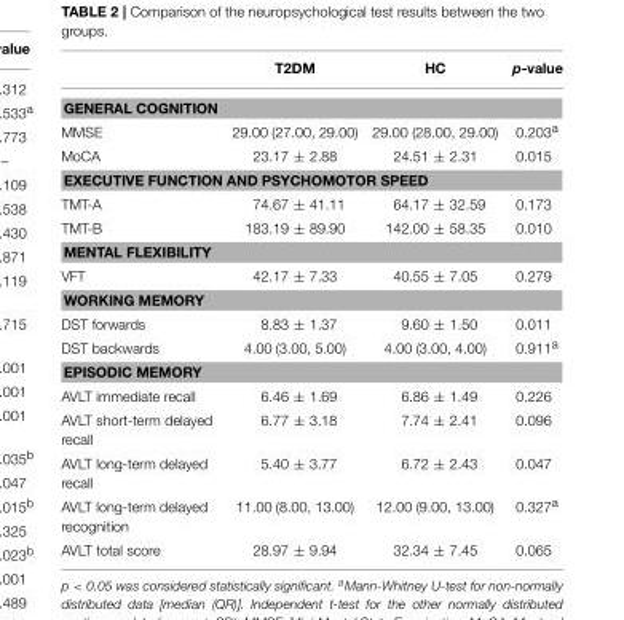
<table><thead><tr><td></td><td>T2DM</td><td>HC</td><td>p-value</td></tr></thead><tbody><tr><td colspan="4">GENERAL COGNITION</td></tr><tr><td>MMSE</td><td>29.00 (27.00, 29.00)</td><td>29.00 (28.00, 29.00)</td><td>0.203<sup>a</sup></td></tr><tr><td>MoCA</td><td>23.17 ± 2.88</td><td>24.51 ± 2.31</td><td>0.015</td></tr><tr><td colspan="4">EXECUTIVE FUNCTION AND PSYCHOMOTOR SPEED</td></tr><tr><td>TMT-A</td><td>74.67 ± 41.11</td><td>64.17 ± 32.59</td><td>0.173</td></tr><tr><td>TMT-B</td><td>183.19 ± 89.90</td><td>142.00 ± 58.35</td><td>0.010</td></tr><tr><td colspan="4">MENTAL FLEXIBILITY</td></tr><tr><td>VFT</td><td>42.17 ± 7.33</td><td>40.55 ± 7.05</td><td>0.279</td></tr><tr><td colspan="4">WORKING MEMORY</td></tr><tr><td>DST forwards</td><td>8.83 ± 1.37</td><td>9.60 ± 1.50</td><td>0.011</td></tr><tr><td>DST backwards</td><td>4.00 (3.00, 5.00)</td><td>4.00 (3.00, 4.00)</td><td>0.911<sup>a</sup></td></tr><tr><td colspan="4">EPISODIC MEMORY</td></tr><tr><td>AVLT immediate recall</td><td>6.46 ± 1.69</td><td>6.86 ± 1.49</td><td>0.226</td></tr><tr><td>AVLT short-term delayed recall</td><td>6.77 ± 3.18</td><td>7.74 ± 2.41</td><td>0.096</td></tr><tr><td>AVLT long-term delayed recall</td><td>5.40 ± 3.77</td><td>6.72 ± 2.43</td><td>0.047</td></tr><tr><td>AVLT long-term delayed recognition</td><td>11.00 (8.00, 13.00)</td><td>12.00 (9.00, 13.00)</td><td>0.327<sup>a</sup></td></tr><tr><td>AVLT total score</td><td>28.97 ± 9.94</td><td>32.34 ± 7.45</td><td>0.065</td></tr></tbody></table>